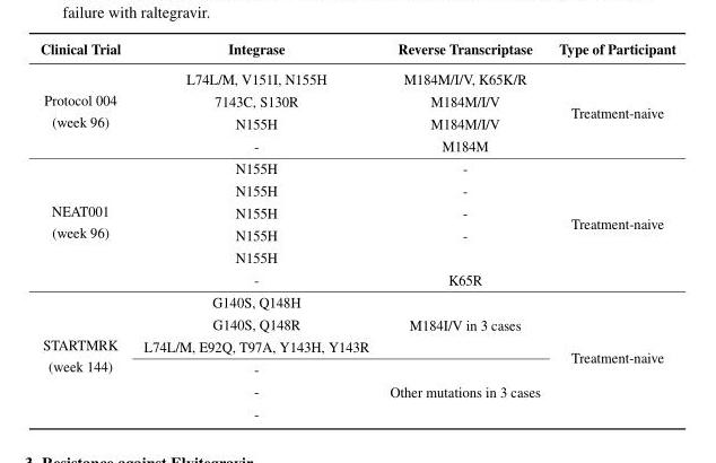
<table><thead><tr><td>Clinical Trial</td><td>Integrase</td><td>Reverse Transcriptase</td><td>Type of Participant</td></tr></thead><tbody><tr><td rowspan="4">Protocol 004 (week 96)</td><td>L74L/M, V151I, N155H</td><td>M184M/I/V, K65K/R</td><td rowspan="4">Treatment-naive</td></tr><tr><td>7143C, S130R</td><td>M184M/I/V</td></tr><tr><td>N155H</td><td>M184M/I/V</td></tr><tr><td>-</td><td>M184M</td></tr><tr><td rowspan="6">NEAT001 (week 96)</td><td>N155H</td><td>-</td><td rowspan="6">Treatment-naive</td></tr><tr><td>N155H</td><td>-</td></tr><tr><td>N155H</td><td>-</td></tr><tr><td>N155H</td><td>-</td></tr><tr><td>N155H</td><td></td></tr><tr><td>-</td><td>K65R</td></tr><tr><td rowspan="6">STARTMRK (week 144)</td><td>G140S, Q148H</td><td rowspan="3">M184I/V in 3 cases</td><td rowspan="6">Treatment-naive</td></tr><tr><td>G140S, Q148R</td></tr><tr><td>L74L/M, E92Q, T97A, Y143H, Y143R</td></tr><tr><td>-</td><td rowspan="3">Other mutations in 3 cases</td></tr><tr><td>-</td></tr><tr><td>-</td></tr></tbody></table>